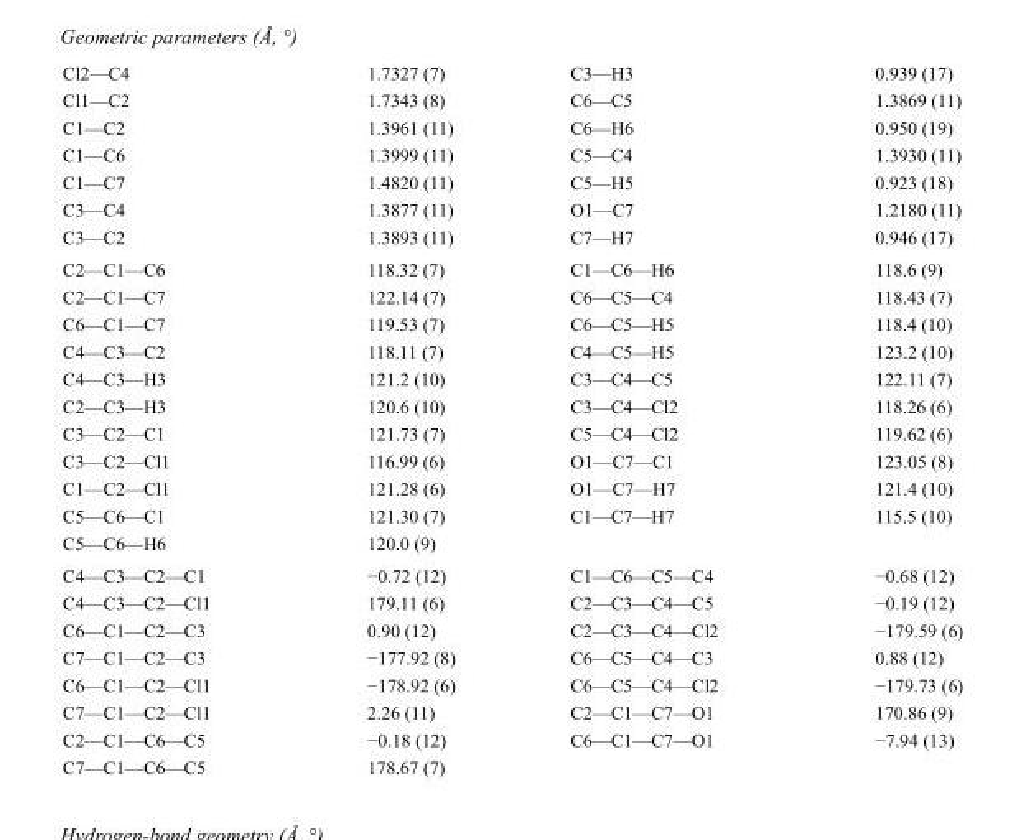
<table><tbody><tr><td>Cl2—C4</td><td>1.7327 (7)</td><td>C3—H3</td><td>0.939 (17)</td></tr><tr><td>Cl1—C2</td><td>1.7343 (8)</td><td>C6—C5</td><td>1.3869 (11)</td></tr><tr><td>C1—C2</td><td>1.3961 (11)</td><td>C6—H6</td><td>0.950 (19)</td></tr><tr><td>C1—C6</td><td>1.3999 (11)</td><td>C5—C4</td><td>1.3930 (11)</td></tr><tr><td>C1—C7</td><td>1.4820 (11)</td><td>C5—H5</td><td>0.923 (18)</td></tr><tr><td>C3—C4</td><td>1.3877 (11)</td><td>O1—C7</td><td>1.2180 (11)</td></tr><tr><td>C3—C2</td><td>1.3893 (11)</td><td>C7—H7</td><td>0.946 (17)</td></tr><tr><td>C2—C1—C6</td><td>118.32 (7)</td><td>C1—C6—H6</td><td>118.6 (9)</td></tr><tr><td>C2—C1—C7</td><td>122.14 (7)</td><td>C6—C5—C4</td><td>118.43 (7)</td></tr><tr><td>C6—C1—C7</td><td>119.53 (7)</td><td>C6—C5—H5</td><td>118.4 (10)</td></tr><tr><td>C4—C3—C2</td><td>118.11 (7)</td><td>C4—C5—H5</td><td>123.2 (10)</td></tr><tr><td>C4—C3—H3</td><td>121.2 (10)</td><td>C3—C4—C5</td><td>122.11 (7)</td></tr><tr><td>C2—C3—H3</td><td>120.6 (10)</td><td>C3—C4—Cl2</td><td>118.26 (6)</td></tr><tr><td>C3—C2—C1</td><td>121.73 (7)</td><td>C5—C4—Cl2</td><td>119.62 (6)</td></tr><tr><td>C3—C2—Cl1</td><td>116.99 (6)</td><td>O1—C7—C1</td><td>123.05 (8)</td></tr><tr><td>C1—C2—Cl1</td><td>121.28 (6)</td><td>O1—C7—H7</td><td>121.4 (10)</td></tr><tr><td>C5—C6—C1</td><td>121.30 (7)</td><td>C1—C7—H7</td><td>115.5 (10)</td></tr><tr><td>C5—C6—H6</td><td>120.0 (9)</td><td></td><td></td></tr><tr><td>C4—C3—C2—C1</td><td>−0.72 (12)</td><td>C1—C6—C5—C4</td><td>−0.68 (12)</td></tr><tr><td>C4—C3—C2—Cl1</td><td>179.11 (6)</td><td>C2—C3—C4—C5</td><td>−0.19 (12)</td></tr><tr><td>C6—C1—C2—C3</td><td>0.90 (12)</td><td>C2—C3—C4—Cl2</td><td>−179.59 (6)</td></tr><tr><td>C7—C1—C2—C3</td><td>−177.92 (8)</td><td>C6—C5—C4—C3</td><td>0.88 (12)</td></tr><tr><td>C6—C1—C2—Cl1</td><td>−178.92 (6)</td><td>C6—C5—C4—Cl2</td><td>−179.73 (6)</td></tr><tr><td>C7—C1—C2—Cl1</td><td>2.26 (11)</td><td>C2—C1—C7—O1</td><td>170.86 (9)</td></tr><tr><td>C2—C1—C6—C5</td><td>−0.18 (12)</td><td>C6—C1—C7—O1</td><td>−7.94 (13)</td></tr><tr><td>C7—C1—C6—C5</td><td>178.67 (7)</td><td></td><td></td></tr></tbody></table>